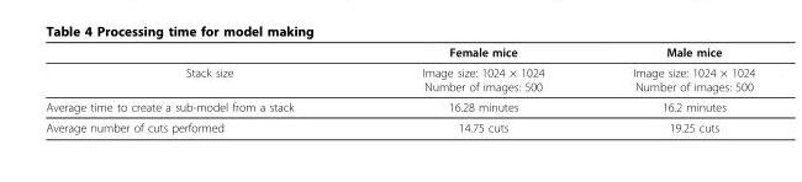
<table><thead><tr><td></td><td>Female mice</td><td>Male mice</td></tr></thead><tbody><tr><td>Stack size</td><td>Image size: 1024 × 1024 Number of images: 500</td><td>Image size: 1024 × 1024 Number of images: 500</td></tr><tr><td>Average time to create a sub-model from a stack</td><td>16.28 minutes</td><td>16.2 minutes</td></tr><tr><td>Average number of cuts performed</td><td>14.75 cuts</td><td>19.25 cuts</td></tr></tbody></table>